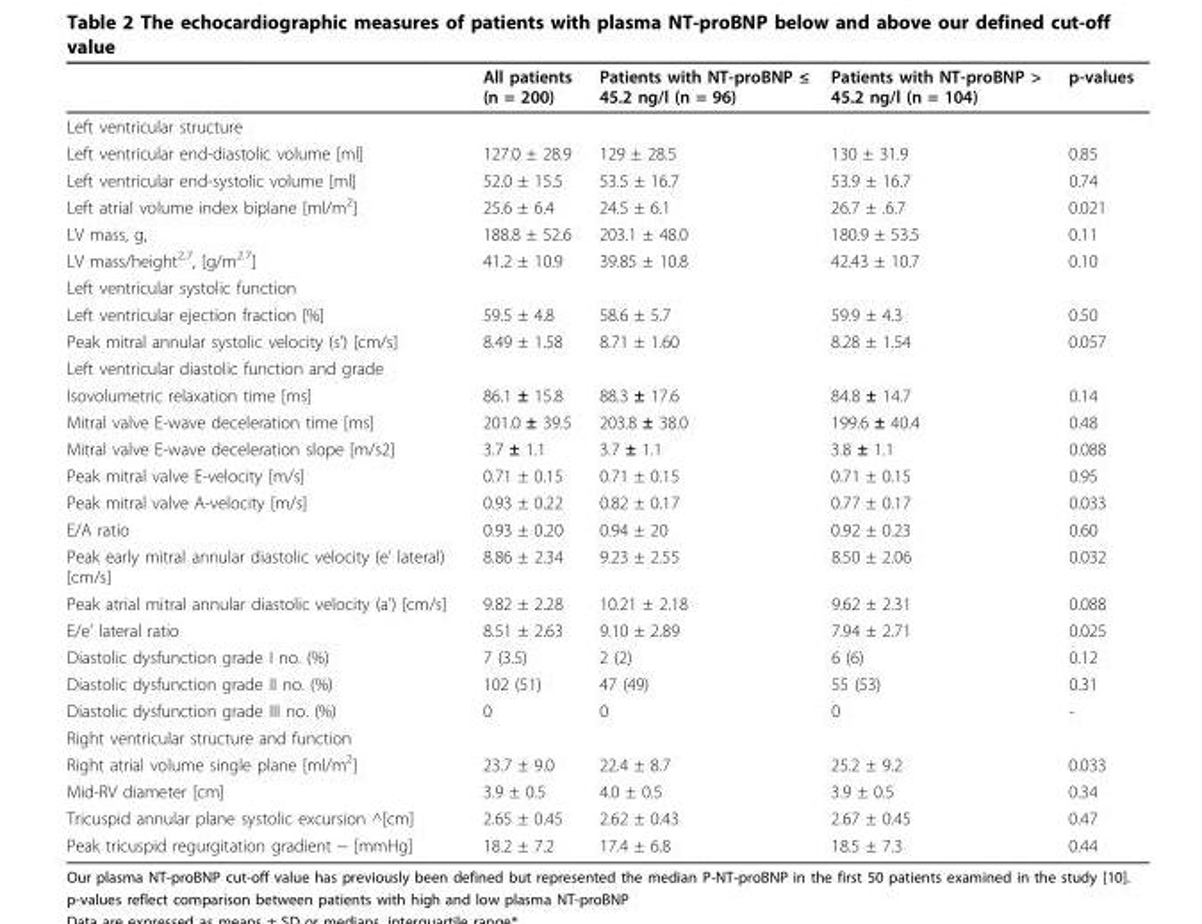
<table><thead><tr><td></td><td>All patients (n = 200)</td><td>Patients with NT-proBNP ≤ 45.2 ng/l (n = 96)</td><td>Patients with NT-proBNP &gt; 45.2 ng/l (n = 104)</td><td>p-values</td></tr></thead><tbody><tr><td colspan="5">Left ventricular structure</td></tr><tr><td>Left ventricular end-diastolic volume [ml]</td><td>127.0 ± 28.9</td><td>129 ± 28.5</td><td>130 ± 31.9</td><td>0.85</td></tr><tr><td>Left ventricular end-systolic volume [ml]</td><td>52.0 ± 15.5</td><td>53.5 ± 16.7</td><td>53.9 ± 16.7</td><td>0.74</td></tr><tr><td>Left atrial volume index biplane [ml/m<sup>2</sup>]</td><td>25.6 ± 6.4</td><td>24.5 ± 6.1</td><td>26.7 ± .6.7</td><td>0.021</td></tr><tr><td>LV mass, g,</td><td>188.8 ± 52.6</td><td>203.1 ± 48.0</td><td>180.9 ± 53.5</td><td>0.11</td></tr><tr><td>LV mass/height<sup>2,7</sup>, [g/m<sup>2.7</sup>]</td><td>41.2 ± 10.9</td><td>39.85 ± 10.8</td><td>42.43 ± 10.7</td><td>0.10</td></tr><tr><td colspan="5">Left ventricular systolic function</td></tr><tr><td>Left ventricular ejection fraction [%]</td><td>59.5 ± 4.8</td><td>58.6 ± 5.7</td><td>59.9 ± 4.3</td><td>0.50</td></tr><tr><td>Peak mitral annular systolic velocity (s’) [cm/s]</td><td>8.49 ± 1.58</td><td>8.71 ± 1.60</td><td>8.28 ± 1.54</td><td>0.057</td></tr><tr><td colspan="5">Left ventricular diastolic function and grade</td></tr><tr><td>Isovolumetric relaxation time [ms]</td><td>86.1 ± 15.8</td><td>88.3 ± 17.6</td><td>84.8 ± 14.7</td><td>0.14</td></tr><tr><td>Mitral valve E-wave deceleration time [ms]</td><td>201.0 ± 39.5</td><td>203.8 ± 38.0</td><td>199.6 ± 40.4</td><td>0.48</td></tr><tr><td>Mitral valve E-wave deceleration slope [m/s2]</td><td>3.7 ± 1.1</td><td>3.7 ± 1.1</td><td>3.8 ± 1.1</td><td>0.088</td></tr><tr><td>Peak mitral valve E-velocity [m/s]</td><td>0.71 ± 0.15</td><td>0.71 ± 0.15</td><td>0.71 ± 0.15</td><td>0.95</td></tr><tr><td>Peak mitral valve A-velocity [m/s]</td><td>0.93 ± 0.22</td><td>0.82 ± 0.17</td><td>0.77 ± 0.17</td><td>0.033</td></tr><tr><td>E/A ratio</td><td>0.93 ± 0.20</td><td>0.94 ± 20</td><td>0.92 ± 0.23</td><td>0.60</td></tr><tr><td>Peak early mitral annular diastolic velocity (e’ lateral) [cm/s]</td><td>8.86 ± 2.34</td><td>9.23 ± 2.55</td><td>8.50 ± 2.06</td><td>0.032</td></tr><tr><td>Peak atrial mitral annular diastolic velocity (a’) [cm/s]</td><td>9.82 ± 2.28</td><td>10.21 ± 2.18</td><td>9.62 ± 2.31</td><td>0.088</td></tr><tr><td>E/e’ lateral ratio</td><td>8.51 ± 2.63</td><td>9.10 ± 2.89</td><td>7.94 ± 2.71</td><td>0.025</td></tr><tr><td>Diastolic dysfunction grade I no. (%)</td><td>7 (3.5)</td><td>2 (2)</td><td>6 (6)</td><td>0.12</td></tr><tr><td>Diastolic dysfunction grade II no. (%)</td><td>102 (51)</td><td>47 (49)</td><td>55 (53)</td><td>0.31</td></tr><tr><td>Diastolic dysfunction grade III no. (%)</td><td>0</td><td>0</td><td>0</td><td>-</td></tr><tr><td colspan="5">Right ventricular structure and function</td></tr><tr><td>Right atrial volume single plane [ml/m<sup>2</sup>]</td><td>23.7 ± 9.0</td><td>22.4 ± 8.7</td><td>25.2 ± 9.2</td><td>0.033</td></tr><tr><td>Mid-RV diameter [cm]</td><td>3.9 ± 0.5</td><td>4.0 ± 0.5</td><td>3.9 ± 0.5</td><td>0.34</td></tr><tr><td>Tricuspid annular plane systolic excursion ^[cm]</td><td>2.65 ± 0.45</td><td>2.62 ± 0.43</td><td>2.67 ± 0.45</td><td>0.47</td></tr><tr><td>Peak tricuspid regurgitation gradient ~ [mmHg]</td><td>18.2 ± 7.2</td><td>17.4 ± 6.8</td><td>18.5 ± 7.3</td><td>0.44</td></tr></tbody></table>